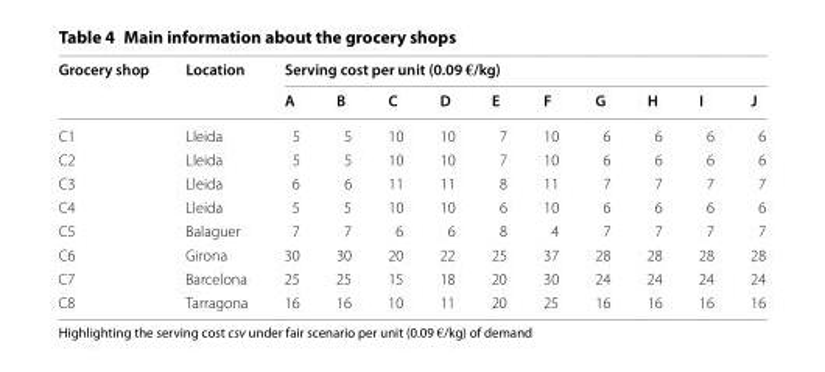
<table><thead><tr><td rowspan="2">Grocery shop</td><td rowspan="2">Location</td><td colspan="10">Serving cost per unit (0.09 €/kg)</td></tr><tr><td>A</td><td>B</td><td>C</td><td>D</td><td>E</td><td>F</td><td>G</td><td>H</td><td>I</td><td>J</td></tr></thead><tbody><tr><td>C1</td><td>Lleida</td><td>5</td><td>5</td><td>10</td><td>10</td><td>7</td><td>10</td><td>6</td><td>6</td><td>6</td><td>6</td></tr><tr><td>C2</td><td>Lleida</td><td>5</td><td>5</td><td>10</td><td>10</td><td>7</td><td>10</td><td>6</td><td>6</td><td>6</td><td>6</td></tr><tr><td>C3</td><td>Lleida</td><td>6</td><td>6</td><td>11</td><td>11</td><td>8</td><td>11</td><td>7</td><td>7</td><td>7</td><td>7</td></tr><tr><td>C4</td><td>Lleida</td><td>5</td><td>5</td><td>10</td><td>10</td><td>6</td><td>10</td><td>6</td><td>6</td><td>6</td><td>6</td></tr><tr><td>C5</td><td>Balaguer</td><td>7</td><td>7</td><td>6</td><td>6</td><td>8</td><td>4</td><td>7</td><td>7</td><td>7</td><td>7</td></tr><tr><td>C6</td><td>Girona</td><td>30</td><td>30</td><td>20</td><td>22</td><td>25</td><td>37</td><td>28</td><td>28</td><td>28</td><td>28</td></tr><tr><td>C7</td><td>Barcelona</td><td>25</td><td>25</td><td>15</td><td>18</td><td>20</td><td>30</td><td>24</td><td>24</td><td>24</td><td>24</td></tr><tr><td>C8</td><td>Tarragona</td><td>16</td><td>16</td><td>10</td><td>11</td><td>20</td><td>25</td><td>16</td><td>16</td><td>16</td><td>16</td></tr></tbody></table>